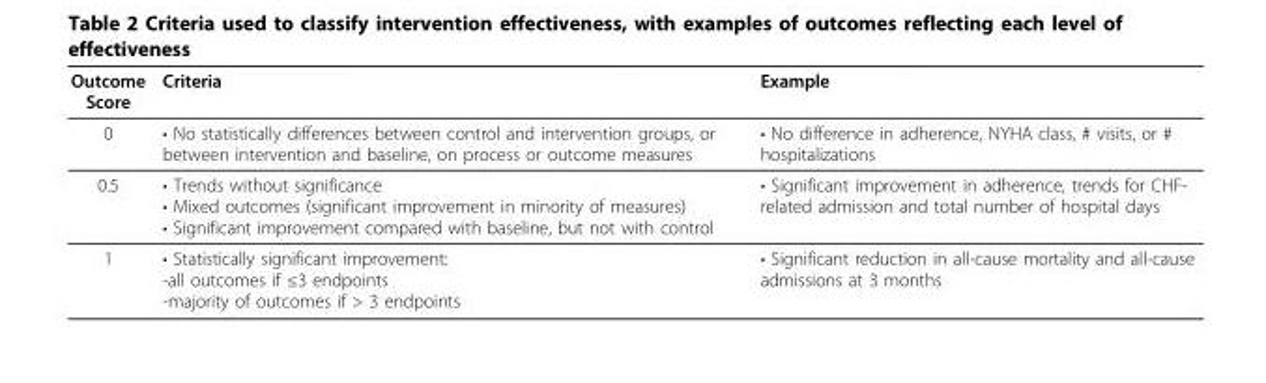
<table><thead><tr><td>Outcome Score</td><td>Criteria</td><td>Example</td></tr></thead><tbody><tr><td>0</td><td>• No statistically differences between control and intervention groups, or between intervention and baseline, on process or outcome measures</td><td>• No difference in adherence, NYHA class, # visits, or # hospitalizations</td></tr><tr><td>0.5</td><td>• Trends without significance • Mixed outcomes (significant improvement in minority of measures) • Significant improvement compared with baseline, but not with control</td><td>• Significant improvement in adherence, trends for CHF- related admission and total number of hospital days</td></tr><tr><td>1</td><td>• Statistically significant improvement: -all outcomes if ≤3 endpoints -majority of outcomes if &gt; 3 endpoints</td><td>• Significant reduction in all-cause mortality and all-cause admissions at 3 months</td></tr></tbody></table>